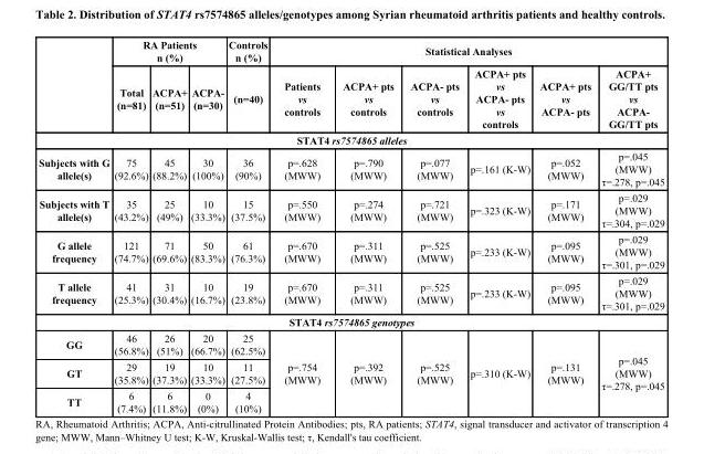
<table><thead><tr><td rowspan="2"></td><td colspan="3">RA Patients n (%)</td><td rowspan="2">Controls n (%) (n=40)</td><td colspan="6">Statistical Analyses</td></tr><tr><td>Total (n=81)</td><td>ACPA+ (n=51)</td><td>ACPA- (n=30)</td><td>Patients vs controls</td><td>ACPA+ pts vs controls</td><td>ACPA- pts vs controls</td><td>ACPA+ pts vs ACPA- pts vs controls</td><td>ACPA+ pts vs ACPA- pts</td><td>ACPA+ GG/TT pts vs ACPA- GG/TT pts</td></tr></thead><tbody><tr><td colspan="11">STAT4 rs7574865 alleles</td></tr><tr><td>Subjects with G allele(s)</td><td>75 (92.6%)</td><td>45 (88.2%)</td><td>30 (100%)</td><td>36 (90%)</td><td>p=.628 (MWW)</td><td>p=.790 (MWW)</td><td>p=.077 (MWW)</td><td>p=.161 (K-W)</td><td>p=.052 (MWW)</td><td>p=.045 (MWW) τ=.278, p=.045</td></tr><tr><td>Subjects with T allele(s)</td><td>35 (43.2%)</td><td>25 (49%)</td><td>10 (33.3%)</td><td>15 (37.5%)</td><td>p=.550 (MWW)</td><td>p=.274 (MWW)</td><td>p=.721 (MWW)</td><td>p=.323 (K-W)</td><td>p=.171 (MWW)</td><td>p=.029 (MWW) τ=.304, p=.029</td></tr><tr><td>G allele frequency</td><td>121 (74.7%)</td><td>71 (69.6%)</td><td>50 (83.3%)</td><td>61 (76.3%)</td><td>p=.670 (MWW)</td><td>p=.311 (MWW)</td><td>p=.525 (MWW)</td><td>p=.233 (K-W)</td><td>p=.095 (MWW)</td><td>p=.029 (MWW) τ=.301, p=.029</td></tr><tr><td>T allele frequency</td><td>41 (25.3%)</td><td>31 (30.4%)</td><td>10 (16.7%)</td><td>19 (23.8%)</td><td>p=.670 (MWW)</td><td>p=.311 (MWW)</td><td>p=.525 (MWW)</td><td>p=.233 (K-W)</td><td>p=.095 (MWW)</td><td>p=.029 (MWW) τ=.301, p=.029</td></tr><tr><td colspan="11">STAT4 rs7574865 genotypes</td></tr><tr><td>GG</td><td>46 (56.8%)</td><td>26 (51%)</td><td>20 (66.7%)</td><td>25 (62.5%)</td><td rowspan="3">p=.754 (MWW)</td><td rowspan="3">p=.392 (MWW)</td><td rowspan="3">p=.525 (MWW)</td><td rowspan="3">p=.310 (K-W)</td><td rowspan="3">p=.131 (MWW)</td><td rowspan="3">p=.045 (MWW) τ=.278, p=.045</td></tr><tr><td>GT</td><td>29 (35.8%)</td><td>19 (37.3%)</td><td>10 (33.3%)</td><td>11 (27.5%)</td></tr><tr><td>TT</td><td>6 (7.4%)</td><td>6 (11.8%)</td><td>0 (0%)</td><td>4 (10%)</td></tr></tbody></table>